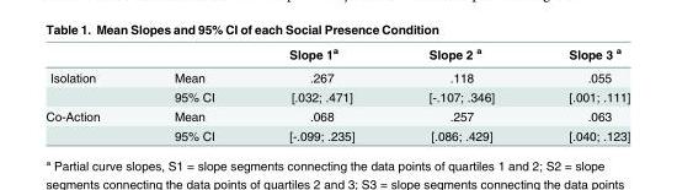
<table><thead><tr><td></td><td></td><td>Slope 1<sup>a</sup></td><td>Slope 2 <sup>a</sup></td><td>Slope 3 <sup>a</sup></td></tr></thead><tbody><tr><td rowspan="2">Isolation</td><td>Mean</td><td>.267</td><td>.118</td><td>.055</td></tr><tr><td>95% CI</td><td>[.032; .471]</td><td>[-.107; .346]</td><td>[.001; .111]</td></tr><tr><td rowspan="2">Co-Action</td><td>Mean</td><td>.068</td><td>.257</td><td>.063</td></tr><tr><td>95% CI</td><td>[-.099; .235]</td><td>[.086; .429]</td><td>[.040; .123]</td></tr></tbody></table>